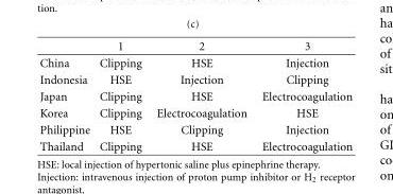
<table><thead><tr><td></td><td>1</td><td>2</td><td>3</td></tr></thead><tbody><tr><td>China</td><td>Clipping</td><td>HSE</td><td>Injection</td></tr><tr><td>Indonesia</td><td>HSE</td><td>Injection</td><td>Clipping</td></tr><tr><td>Japan</td><td>Clipping</td><td>HSE</td><td>Electrocoagulation</td></tr><tr><td>Korea</td><td>Clipping</td><td>Electrocoagulation</td><td>HSE</td></tr><tr><td>Philippine</td><td>HSE</td><td>Clipping</td><td>Injection</td></tr><tr><td>Thailand</td><td>Clipping</td><td>HSE</td><td>Electrocoagulation</td></tr></tbody></table>